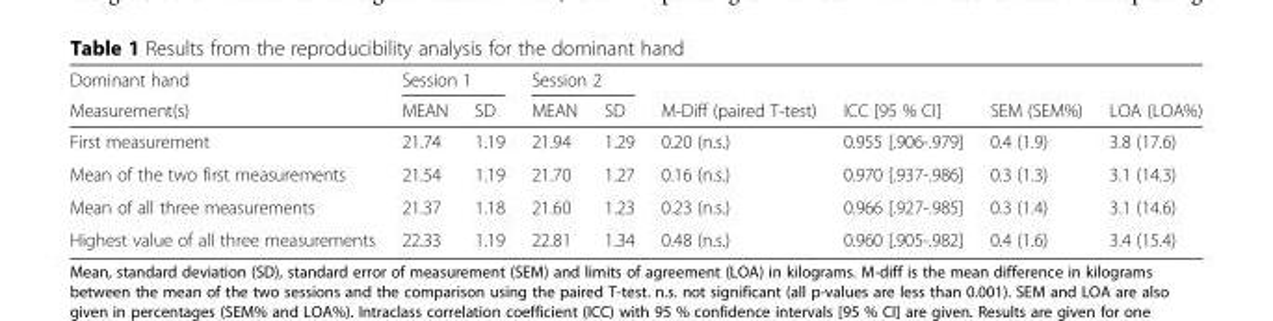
<table><thead><tr><td rowspan="2">Dominant hand Measurement(s)</td><td colspan="2">Session 1</td><td colspan="2">Session 2</td><td rowspan="2">M-Diff (paired T-test)</td><td rowspan="2">ICC [95 % CI]</td><td rowspan="2">SEM (SEM%)</td><td rowspan="2">LOA (LOA%)</td></tr><tr><td>MEAN</td><td>SD</td><td>MEAN</td><td>SD</td></tr></thead><tbody><tr><td>First measurement</td><td>21.74</td><td>1.19</td><td>21.94</td><td>1.29</td><td>0.20 (n.s.)</td><td>0.955 [.906-.979]</td><td>0.4 (1.9)</td><td>3.8 (17.6)</td></tr><tr><td>Mean of the two first measurements</td><td>21.54</td><td>1.19</td><td>21.70</td><td>1.27</td><td>0.16 (n.s.)</td><td>0.970 [.937-.986]</td><td>0.3 (1.3)</td><td>3.1 (14.3)</td></tr><tr><td>Mean of all three measurements</td><td>21.37</td><td>1.18</td><td>21.60</td><td>1.23</td><td>0.23 (n.s.)</td><td>0.966 [.927-.985]</td><td>0.3 (1.4)</td><td>3.1 (14.6)</td></tr><tr><td>Highest value of all three measurements</td><td>22.33</td><td>1.19</td><td>22.81</td><td>1.34</td><td>0.48 (n.s.)</td><td>0.960 [.905-.982]</td><td>0.4 (1.6)</td><td>3.4 (15.4)</td></tr></tbody></table>